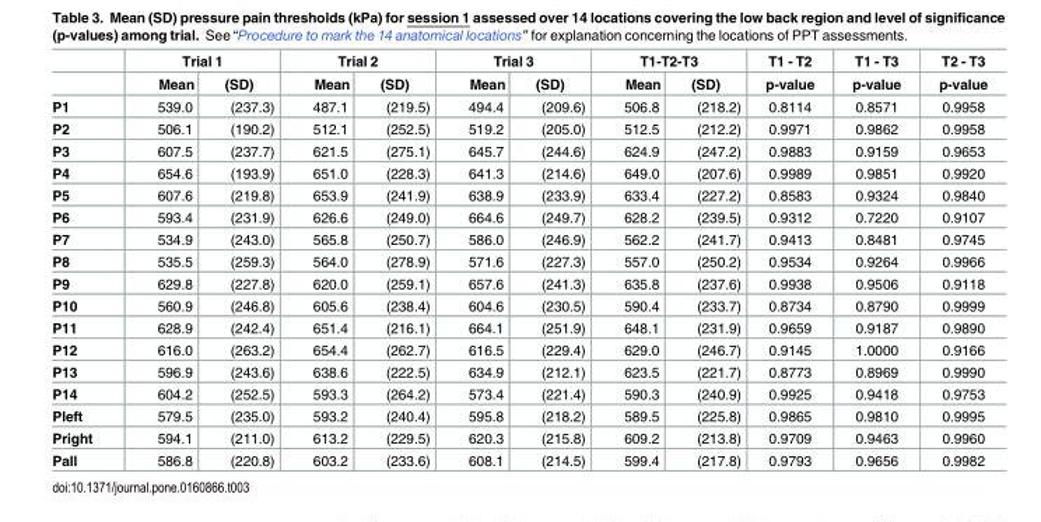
<table><thead><tr><td rowspan="2"></td><td colspan="2">Trial 1</td><td colspan="2">Trial 2</td><td colspan="2">Trial 3</td><td colspan="2">T1-T2-T3</td><td rowspan="2">T1 - T2 p-value</td><td rowspan="2">T1 - T3 p-value</td><td rowspan="2">T2 - T3 p-value</td></tr><tr><td>Mean</td><td>(SD)</td><td>Mean</td><td>(SD)</td><td>Mean</td><td>(SD)</td><td>Mean</td><td>(SD)</td></tr></thead><tbody><tr><td>P1</td><td>539.0</td><td>(237.3)</td><td>487.1</td><td>(219.5)</td><td>494.4</td><td>(209.6)</td><td>506.8</td><td>(218.2)</td><td>0.8114</td><td>0.8571</td><td>0.9958</td></tr><tr><td>P2</td><td>506.1</td><td>(190.2)</td><td>512.1</td><td>(252.5)</td><td>519.2</td><td>(205.0)</td><td>512.5</td><td>(212.2)</td><td>0.9971</td><td>0.9862</td><td>0.9958</td></tr><tr><td>P3</td><td>607.5</td><td>(237.7)</td><td>621.5</td><td>(275.1)</td><td>645.7</td><td>(244.6)</td><td>624.9</td><td>(247.2)</td><td>0.9883</td><td>0.9159</td><td>0.9653</td></tr><tr><td>P4</td><td>654.6</td><td>(193.9)</td><td>651.0</td><td>(228.3)</td><td>641.3</td><td>(214.6)</td><td>649.0</td><td>(207.6)</td><td>0.9989</td><td>0.9851</td><td>0.9920</td></tr><tr><td>P5</td><td>607.6</td><td>(219.8)</td><td>653.9</td><td>(241.9)</td><td>638.9</td><td>(233.9)</td><td>633.4</td><td>(227.2)</td><td>0.8583</td><td>0.9324</td><td>0.9840</td></tr><tr><td>P6</td><td>593.4</td><td>(231.9)</td><td>626.6</td><td>(249.0)</td><td>664.6</td><td>(249.7)</td><td>628.2</td><td>(239.5)</td><td>0.9312</td><td>0.7220</td><td>0.9107</td></tr><tr><td>P7</td><td>534.9</td><td>(243.0)</td><td>565.8</td><td>(250.7)</td><td>586.0</td><td>(246.9)</td><td>562.2</td><td>(241.7)</td><td>0.9413</td><td>0.8481</td><td>0.9745</td></tr><tr><td>P8</td><td>535.5</td><td>(259.3)</td><td>564.0</td><td>(278.9)</td><td>571.6</td><td>(227.3)</td><td>557.0</td><td>(250.2)</td><td>0.9534</td><td>0.9264</td><td>0.9966</td></tr><tr><td>P9</td><td>629.8</td><td>(227.8)</td><td>620.0</td><td>(259.1)</td><td>657.6</td><td>(241.3)</td><td>635.8</td><td>(237.6)</td><td>0.9938</td><td>0.9506</td><td>0.9118</td></tr><tr><td>P10</td><td>560.9</td><td>(246.8)</td><td>605.6</td><td>(238.4)</td><td>604.6</td><td>(230.5)</td><td>590.4</td><td>(233.7)</td><td>0.8734</td><td>0.8790</td><td>0.9999</td></tr><tr><td>P11</td><td>628.9</td><td>(242.4)</td><td>651.4</td><td>(216.1)</td><td>664.1</td><td>(251.9)</td><td>648.1</td><td>(231.9)</td><td>0.9659</td><td>0.9187</td><td>0.9890</td></tr><tr><td>P12</td><td>616.0</td><td>(263.2)</td><td>654.4</td><td>(262.7)</td><td>616.5</td><td>(229.4)</td><td>629.0</td><td>(246.7)</td><td>0.9145</td><td>1.0000</td><td>0.9166</td></tr><tr><td>P13</td><td>596.9</td><td>(243.6)</td><td>638.6</td><td>(222.5)</td><td>634.9</td><td>(212.1)</td><td>623.5</td><td>(221.7)</td><td>0.8773</td><td>0.8969</td><td>0.9990</td></tr><tr><td>P14</td><td>604.2</td><td>(252.5)</td><td>593.3</td><td>(264.2)</td><td>573.4</td><td>(221.4)</td><td>590.3</td><td>(240.9)</td><td>0.9925</td><td>0.9418</td><td>0.9753</td></tr><tr><td>Pleft</td><td>579.5</td><td>(235.0)</td><td>593.2</td><td>(240.4)</td><td>595.8</td><td>(218.2)</td><td>589.5</td><td>(225.8)</td><td>0.9865</td><td>0.9810</td><td>0.9995</td></tr><tr><td>Pright</td><td>594.1</td><td>(211.0)</td><td>613.2</td><td>(229.5)</td><td>620.3</td><td>(215.8)</td><td>609.2</td><td>(213.8)</td><td>0.9709</td><td>0.9463</td><td>0.9960</td></tr><tr><td>Pall</td><td>586.8</td><td>(220.8)</td><td>603.2</td><td>(233.6)</td><td>608.1</td><td>(214.5)</td><td>599.4</td><td>(217.8)</td><td>0.9793</td><td>0.9656</td><td>0.9982</td></tr></tbody></table>